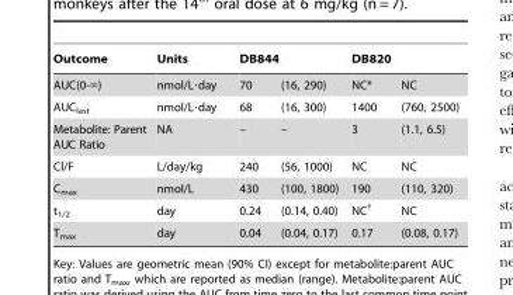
<table><thead><tr><td rowspan="2">Outcome AUC(0-‘)</td><td rowspan="2">Units nmol/L·day</td><td colspan="2">DB844</td><td colspan="2">DB820</td></tr><tr><td>70</td><td>(16, 290)</td><td>NC*</td><td>NC</td></tr></thead><tbody><tr><td>AUC<sub>last</sub></td><td>nmol/L·day</td><td>68</td><td>(16, 300)</td><td>1400</td><td>(760, 2500)</td></tr><tr><td>Metabolite: Parent AUC Ratio</td><td>NA</td><td>–</td><td>–</td><td>3</td><td>(1.1, 6.5)</td></tr><tr><td>Cl/F</td><td>L/day/kg</td><td>240</td><td>(56, 1000)</td><td>NC</td><td>NC</td></tr><tr><td>C<sub>max</sub></td><td>nmol/L</td><td>430</td><td>(100, 1800)</td><td>190</td><td>(110, 320)</td></tr><tr><td>t<sub>1/2</sub></td><td>day</td><td>0.24</td><td>(0.14, 0.40)</td><td>NC†</td><td>NC</td></tr><tr><td>T<sub>max</sub></td><td>day</td><td>0.04</td><td>(0.04, 0.17)</td><td>0.17</td><td>(0.08, 0.17)</td></tr></tbody></table>